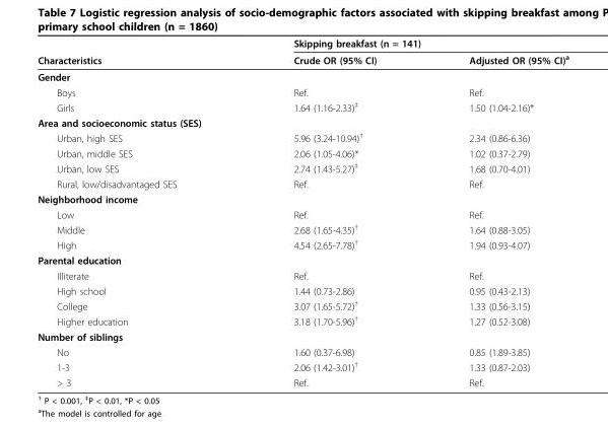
<table><thead><tr><td rowspan="2">Characteristics</td><td colspan="2">Skipping breakfast (n = 141)</td></tr><tr><td>Crude OR (95% CI)</td><td>Adjusted OR (95% CI)<sup>a</sup></td></tr></thead><tbody><tr><td colspan="3">Gender</td></tr><tr><td>Boys</td><td>Ref.</td><td>Ref.</td></tr><tr><td>Girls</td><td>1.64 (1.16-2.33)<sup>‡</sup></td><td>1.50 (1.04-2.16)*</td></tr><tr><td colspan="3">Area and socioeconomic status (SES)</td></tr><tr><td>Urban, high SES</td><td>5.96 (3.24-10.94)<sup>†</sup></td><td>2.34 (0.86-6.36)</td></tr><tr><td>Urban, middle SES</td><td>2.06 (1.05-4.06)*</td><td>1.02 (0.37-2.79)</td></tr><tr><td>Urban, low SES</td><td>2.74 (1.43-5.27)<sup>‡</sup></td><td>1.68 (0.70-4.01)</td></tr><tr><td>Rural, low/disadvantaged SES</td><td>Ref.</td><td>Ref.</td></tr><tr><td colspan="3">Neighborhood income</td></tr><tr><td>Low</td><td>Ref.</td><td>Ref.</td></tr><tr><td>Middle</td><td>2.68 (1.65-4.35)<sup>†</sup></td><td>1.64 (0.88-3.05)</td></tr><tr><td>High</td><td>4.54 (2.65-7.78)<sup>†</sup></td><td>1.94 (0.93-4.07)</td></tr><tr><td colspan="3">Parental education</td></tr><tr><td>Illiterate</td><td>Ref.</td><td>Ref.</td></tr><tr><td>High school</td><td>1.44 (0.73-2.86)</td><td>0.95 (0.43-2.13)</td></tr><tr><td>College</td><td>3.07 (1.65-5.72)<sup>†</sup></td><td>1.33 (0.56-3.15)</td></tr><tr><td>Higher education</td><td>3.18 (1.70-5.96)<sup>†</sup></td><td>1.27 (0.52-3.08)</td></tr><tr><td colspan="3">Number of siblings</td></tr><tr><td>No</td><td>1.60 (0.37-6.98)</td><td>0.85 (1.89-3.85)</td></tr><tr><td>1-3</td><td>2.06 (1.42-3.01)<sup>†</sup></td><td>1.33 (0.87-2.03)</td></tr><tr><td>&gt; 3</td><td>Ref.</td><td>Ref.</td></tr></tbody></table>